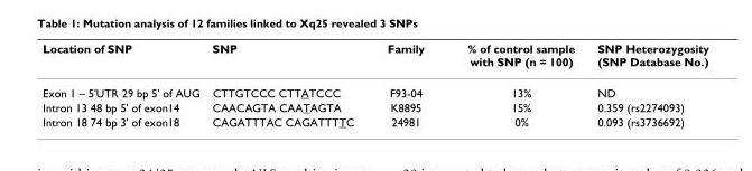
<table><thead><tr><td>Location of SNP</td><td>SNP</td><td>Family</td><td>% of control sample with SNP (n = 100)</td><td>SNP Heterozygosity (SNP Database No.)</td></tr></thead><tbody><tr><td>Exon 1 – 5&#x27;UTR 29 bp 5&#x27; of AUG</td><td>CTTGTCCC CTTATCCC</td><td>F93-04</td><td>13%</td><td>ND</td></tr><tr><td>Intron 13 48 bp 5&#x27; of exon14</td><td>CAACAGTA CAATAGTA</td><td>K8895</td><td>15%</td><td>0.359 (rs2274093)</td></tr><tr><td>Intron 18 74 bp 3&#x27; of exon18</td><td>CAGATTTAC CAGATTTTC</td><td>24981</td><td>0%</td><td>0.093 (rs3736692)</td></tr></tbody></table>